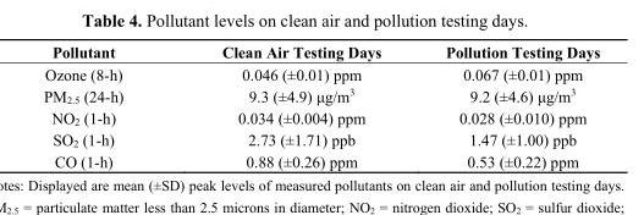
<table><thead><tr><td>Pollutant</td><td>Clean Air Testing Days</td><td>Pollution Testing Days</td></tr></thead><tbody><tr><td>Ozone (8-h)</td><td>0.046 (±0.01) ppm</td><td>0.067 (±0.01) ppm</td></tr><tr><td>PM<sub>2.5</sub> (24-h)</td><td>9.3 (±4.9) μg/m<sup>3</sup></td><td>9.2 (±4.6) μg/m<sup>3</sup></td></tr><tr><td>NO<sub>2</sub> (1-h)</td><td>0.034 (±0.004) ppm</td><td>0.028 (±0.010) ppm</td></tr><tr><td>SO<sub>2</sub> (1-h)</td><td>2.73 (±1.71) ppb</td><td>1.47 (±1.00) ppb</td></tr><tr><td>CO (1-h)</td><td>0.88 (±0.26) ppm</td><td>0.53 (±0.22) ppm</td></tr></tbody></table>